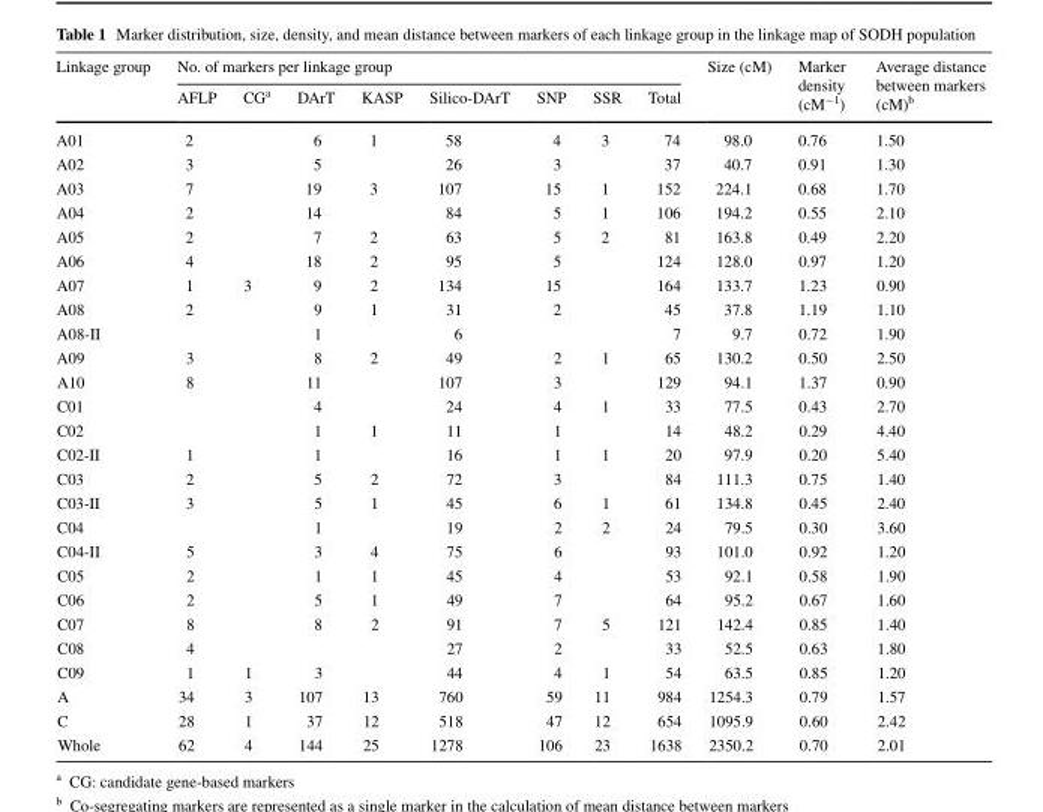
<table><thead><tr><td rowspan="2">Linkage group</td><td colspan="8">No. of markers per linkage group</td><td rowspan="2">Size (cM)</td><td rowspan="2">Marker density (cM<sup>−1</sup>)</td><td rowspan="2">Average distance between markers (cM)<sup>b</sup></td></tr><tr><td>AFLP</td><td>CG<sup>a</sup></td><td>DArT</td><td>KASP</td><td>Silico-DArT</td><td>SNP</td><td>SSR</td><td>Total</td></tr></thead><tbody><tr><td>A01</td><td>2</td><td></td><td>6</td><td>1</td><td>58</td><td>4</td><td>3</td><td>74</td><td>98.0</td><td>0.76</td><td>1.50</td></tr><tr><td>A02</td><td>3</td><td></td><td>5</td><td></td><td>26</td><td>3</td><td></td><td>37</td><td>40.7</td><td>0.91</td><td>1.30</td></tr><tr><td>A03</td><td>7</td><td></td><td>19</td><td>3</td><td>107</td><td>15</td><td>1</td><td>152</td><td>224.1</td><td>0.68</td><td>1.70</td></tr><tr><td>A04</td><td>2</td><td></td><td>14</td><td></td><td>84</td><td>5</td><td>1</td><td>106</td><td>194.2</td><td>0.55</td><td>2.10</td></tr><tr><td>A05</td><td>2</td><td></td><td>7</td><td>2</td><td>63</td><td>5</td><td>2</td><td>81</td><td>163.8</td><td>0.49</td><td>2.20</td></tr><tr><td>A06</td><td>4</td><td></td><td>18</td><td>2</td><td>95</td><td>5</td><td></td><td>124</td><td>128.0</td><td>0.97</td><td>1.20</td></tr><tr><td>A07</td><td>1</td><td>3</td><td>9</td><td>2</td><td>134</td><td>15</td><td></td><td>164</td><td>133.7</td><td>1.23</td><td>0.90</td></tr><tr><td>A08</td><td>2</td><td></td><td>9</td><td>1</td><td>31</td><td>2</td><td></td><td>45</td><td>37.8</td><td>1.19</td><td>1.10</td></tr><tr><td>A08-II</td><td></td><td></td><td>1</td><td></td><td>6</td><td></td><td></td><td>7</td><td>9.7</td><td>0.72</td><td>1.90</td></tr><tr><td>A09</td><td>3</td><td></td><td>8</td><td>2</td><td>49</td><td>2</td><td>1</td><td>65</td><td>130.2</td><td>0.50</td><td>2.50</td></tr><tr><td>A10</td><td>8</td><td></td><td>11</td><td></td><td>107</td><td>3</td><td></td><td>129</td><td>94.1</td><td>1.37</td><td>0.90</td></tr><tr><td>C01</td><td></td><td></td><td>4</td><td></td><td>24</td><td>4</td><td>1</td><td>33</td><td>77.5</td><td>0.43</td><td>2.70</td></tr><tr><td>C02</td><td></td><td></td><td>1</td><td>1</td><td>11</td><td>1</td><td></td><td>14</td><td>48.2</td><td>0.29</td><td>4.40</td></tr><tr><td>C02-II</td><td>1</td><td></td><td>1</td><td></td><td>16</td><td>1</td><td>1</td><td>20</td><td>97.9</td><td>0.20</td><td>5.40</td></tr><tr><td>C03</td><td>2</td><td></td><td>5</td><td>2</td><td>72</td><td>3</td><td></td><td>84</td><td>111.3</td><td>0.75</td><td>1.40</td></tr><tr><td>C03-II</td><td>3</td><td></td><td>5</td><td>1</td><td>45</td><td>6</td><td>1</td><td>61</td><td>134.8</td><td>0.45</td><td>2.40</td></tr><tr><td>C04</td><td></td><td></td><td>1</td><td></td><td>19</td><td>2</td><td>2</td><td>24</td><td>79.5</td><td>0.30</td><td>3.60</td></tr><tr><td>C04-II</td><td>5</td><td></td><td>3</td><td>4</td><td>75</td><td>6</td><td></td><td>93</td><td>101.0</td><td>0.92</td><td>1.20</td></tr><tr><td>C05</td><td>2</td><td></td><td>1</td><td>1</td><td>45</td><td>4</td><td></td><td>53</td><td>92.1</td><td>0.58</td><td>1.90</td></tr><tr><td>C06</td><td>2</td><td></td><td>5</td><td>1</td><td>49</td><td>7</td><td></td><td>64</td><td>95.2</td><td>0.67</td><td>1.60</td></tr><tr><td>C07</td><td>8</td><td></td><td>8</td><td>2</td><td>91</td><td>7</td><td>5</td><td>121</td><td>142.4</td><td>0.85</td><td>1.40</td></tr><tr><td>C08</td><td>4</td><td></td><td></td><td></td><td>27</td><td>2</td><td></td><td>33</td><td>52.5</td><td>0.63</td><td>1.80</td></tr><tr><td>C09</td><td>1</td><td>1</td><td>3</td><td></td><td>44</td><td>4</td><td>1</td><td>54</td><td>63.5</td><td>0.85</td><td>1.20</td></tr><tr><td>A</td><td>34</td><td>3</td><td>107</td><td>13</td><td>760</td><td>59</td><td>11</td><td>984</td><td>1254.3</td><td>0.79</td><td>1.57</td></tr><tr><td>C</td><td>28</td><td>1</td><td>37</td><td>12</td><td>518</td><td>47</td><td>12</td><td>654</td><td>1095.9</td><td>0.60</td><td>2.42</td></tr><tr><td>Whole</td><td>62</td><td>4</td><td>144</td><td>25</td><td>1278</td><td>106</td><td>23</td><td>1638</td><td>2350.2</td><td>0.70</td><td>2.01</td></tr></tbody></table>